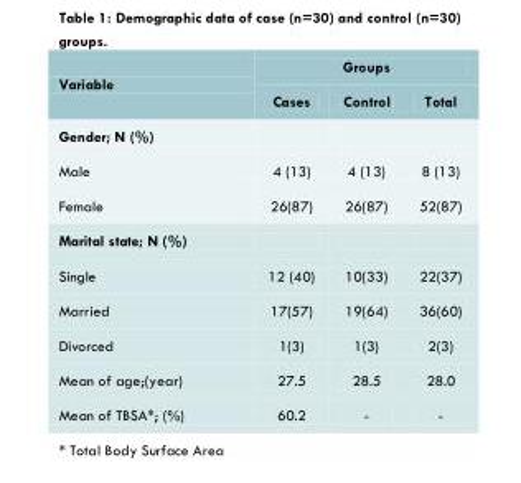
<table><thead><tr><td rowspan="2">Variable</td><td colspan="3">Groups</td></tr><tr><td>Cases</td><td>Control</td><td>Total</td></tr></thead><tbody><tr><td colspan="4">Gender; N (%)</td></tr><tr><td>Male</td><td>4 (13)</td><td>4 (13)</td><td>8 (13)</td></tr><tr><td>Female</td><td>26(87)</td><td>26(87)</td><td>52(87)</td></tr><tr><td colspan="4">Marital state; N (%)</td></tr><tr><td>Single</td><td>12 (40)</td><td>10(33)</td><td>22(37)</td></tr><tr><td>Married</td><td>17(57)</td><td>19(64)</td><td>36(60)</td></tr><tr><td>Divorced</td><td>1(3)</td><td>1(3)</td><td>2(3)</td></tr><tr><td>Mean of age;(year)</td><td>27.5</td><td>28.5</td><td>28.0</td></tr><tr><td>Mean of TBSA*; (%)</td><td>60.2</td><td>-</td><td>-</td></tr></tbody></table>